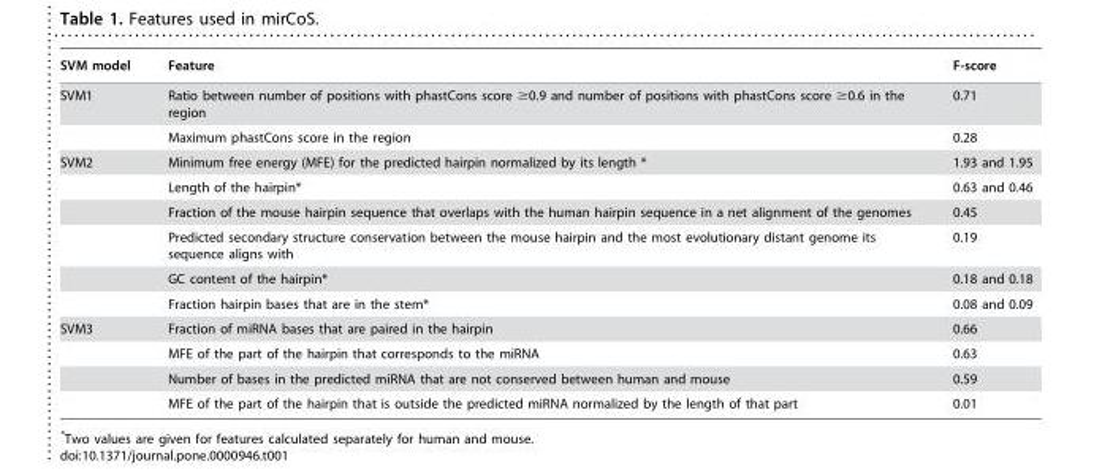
<table><thead><tr><td>SVM model</td><td>Feature</td><td>F-score</td></tr></thead><tbody><tr><td rowspan="2">SVM1</td><td>Ratio between number of positions with phastCons score ≥0.9 and number of positions with phastCons score ≥0.6 in the region</td><td>0.71</td></tr><tr><td>Maximum phastCons score in the region</td><td>0.28</td></tr><tr><td rowspan="6">SVM2</td><td>Minimum free energy (MFE) for the predicted hairpin normalized by its length *</td><td>1.93 and 1.95</td></tr><tr><td>Length of the hairpin*</td><td>0.63 and 0.46</td></tr><tr><td>Fraction of the mouse hairpin sequence that overlaps with the human hairpin sequence in a net alignment of the genomes</td><td>0.45</td></tr><tr><td>Predicted secondary structure conservation between the mouse hairpin and the most evolutionary distant genome its sequence aligns with</td><td>0.19</td></tr><tr><td>GC content of the hairpin*</td><td>0.18 and 0.18</td></tr><tr><td>Fraction hairpin bases that are in the stem*</td><td>0.08 and 0.09</td></tr><tr><td rowspan="4">SVM3</td><td>Fraction of miRNA bases that are paired in the hairpin</td><td>0.66</td></tr><tr><td>MFE of the part of the hairpin that corresponds to the miRNA</td><td>0.63</td></tr><tr><td>Number of bases in the predicted miRNA that are not conserved between human and mouse</td><td>0.59</td></tr><tr><td>MFE of the part of the hairpin that is outside the predicted miRNA normalized by the length of that part</td><td>0.01</td></tr></tbody></table>